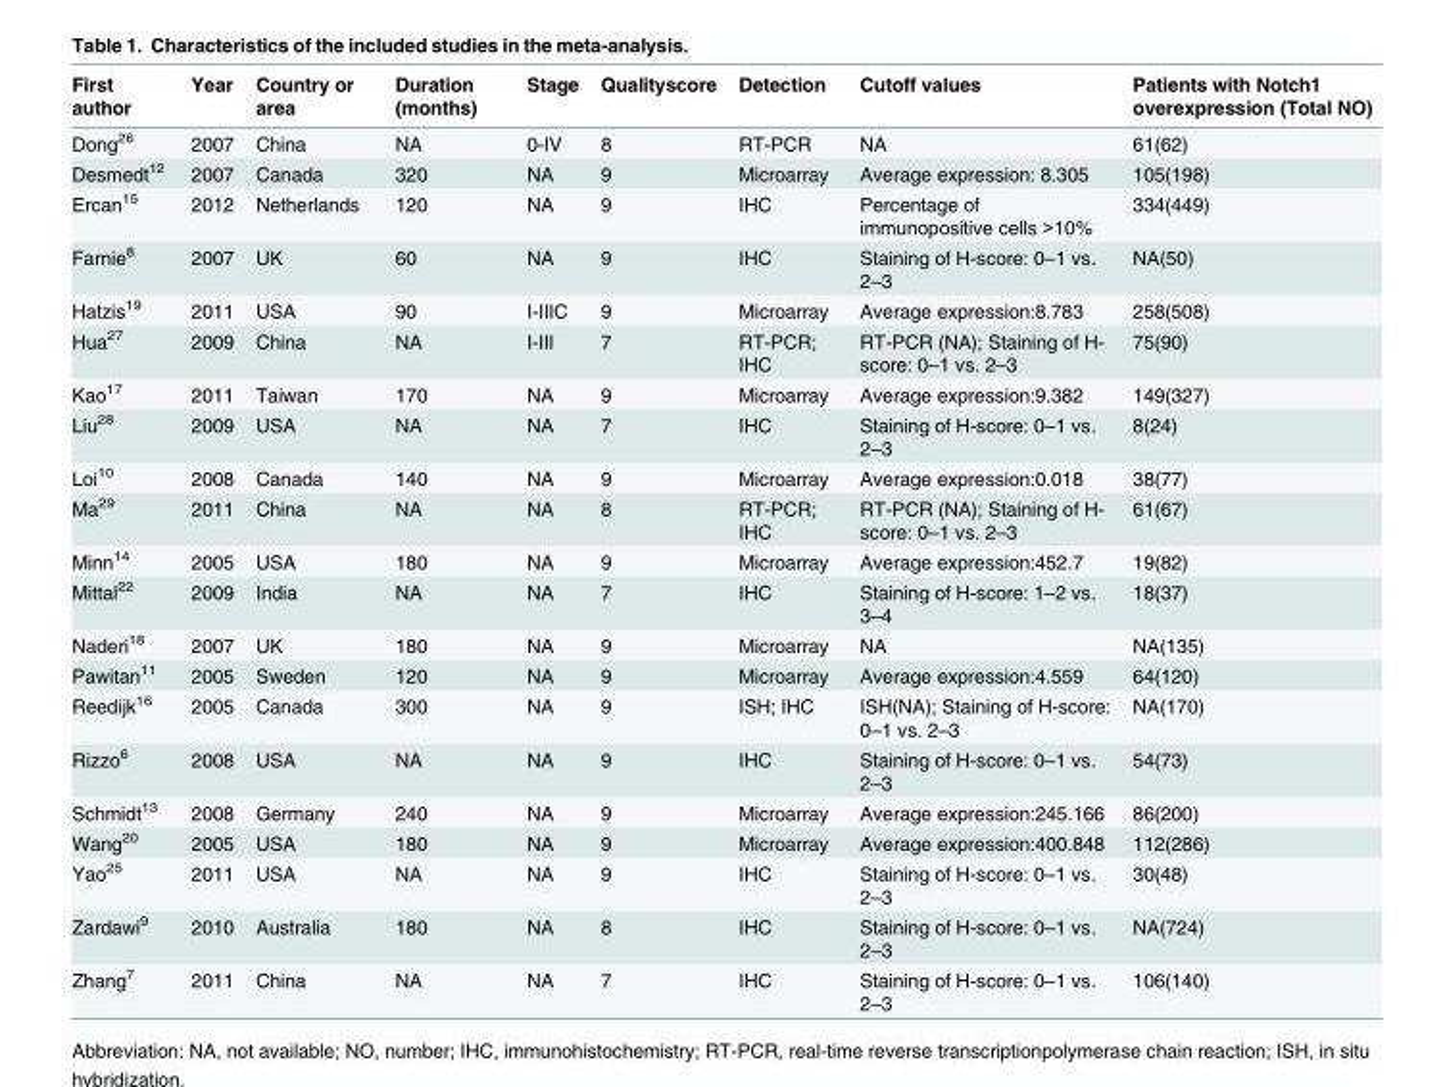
<table><thead><tr><td>First author</td><td>Year</td><td>Country or area</td><td>Duration (months)</td><td>Stage</td><td>Qualityscore</td><td>Detection</td><td>Cutoff values</td><td>Patients with Notch1 overexpression (Total NO)</td></tr></thead><tbody><tr><td>Dong<sup>26</sup></td><td>2007</td><td>China</td><td>NA</td><td>0-IV</td><td>8</td><td>RT-PCR</td><td>NA</td><td>61(62)</td></tr><tr><td>Desmedt<sup>12</sup></td><td>2007</td><td>Canada</td><td>320</td><td>NA</td><td>9</td><td>Microarray</td><td>Average expression: 8.305</td><td>105(198)</td></tr><tr><td>Ercan<sup>15</sup></td><td>2012</td><td>Netherlands</td><td>120</td><td>NA</td><td>9</td><td>IHC</td><td>Percentage of immunopositive cells &gt;10%</td><td>334(449)</td></tr><tr><td>Farnie<sup>8</sup></td><td>2007</td><td>UK</td><td>60</td><td>NA</td><td>9</td><td>IHC</td><td>Staining of H-score: 0–1 vs. 2–3</td><td>NA(50)</td></tr><tr><td>Hatzis<sup>19</sup></td><td>2011</td><td>USA</td><td>90</td><td>I-IIIC</td><td>9</td><td>Microarray</td><td>Average expression:8.783</td><td>258(508)</td></tr><tr><td>Hua<sup>27</sup></td><td>2009</td><td>China</td><td>NA</td><td>I-III</td><td>7</td><td>RT-PCR; IHC</td><td>RT-PCR (NA); Staining of H- score: 0–1 vs. 2–3</td><td>75(90)</td></tr><tr><td>Kao<sup>17</sup></td><td>2011</td><td>Taiwan</td><td>170</td><td>NA</td><td>9</td><td>Microarray</td><td>Average expression:9.382</td><td>149(327)</td></tr><tr><td>Liu<sup>28</sup></td><td>2009</td><td>USA</td><td>NA</td><td>NA</td><td>7</td><td>IHC</td><td>Staining of H-score: 0–1 vs. 2–3</td><td>8(24)</td></tr><tr><td>Loi<sup>10</sup></td><td>2008</td><td>Canada</td><td>140</td><td>NA</td><td>9</td><td>Microarray</td><td>Average expression:0.018</td><td>38(77)</td></tr><tr><td>Ma<sup>29</sup></td><td>2011</td><td>China</td><td>NA</td><td>NA</td><td>8</td><td>RT-PCR; IHC</td><td>RT-PCR (NA); Staining of H- score: 0–1 vs. 2–3</td><td>61(67)</td></tr><tr><td>Minn<sup>14</sup></td><td>2005</td><td>USA</td><td>180</td><td>NA</td><td>9</td><td>Microarray</td><td>Average expression:452.7</td><td>19(82)</td></tr><tr><td>Mittal<sup>22</sup></td><td>2009</td><td>India</td><td>NA</td><td>NA</td><td>7</td><td>IHC</td><td>Staining of H-score: 1–2 vs. 3–4</td><td>18(37)</td></tr><tr><td>Naderi<sup>18</sup></td><td>2007</td><td>UK</td><td>180</td><td>NA</td><td>9</td><td>Microarray</td><td>NA</td><td>NA(135)</td></tr><tr><td>Pawitan<sup>11</sup></td><td>2005</td><td>Sweden</td><td>120</td><td>NA</td><td>9</td><td>Microarray</td><td>Average expression:4.559</td><td>64(120)</td></tr><tr><td>Reedijk<sup>16</sup></td><td>2005</td><td>Canada</td><td>300</td><td>NA</td><td>9</td><td>ISH; IHC</td><td>ISH(NA); Staining of H-score: 0–1 vs. 2–3</td><td>NA(170)</td></tr><tr><td>Rizzo<sup>6</sup></td><td>2008</td><td>USA</td><td>NA</td><td>NA</td><td>9</td><td>IHC</td><td>Staining of H-score: 0–1 vs. 2–3</td><td>54(73)</td></tr><tr><td>Schmidt<sup>13</sup></td><td>2008</td><td>Germany</td><td>240</td><td>NA</td><td>9</td><td>Microarray</td><td>Average expression:245.166</td><td>86(200)</td></tr><tr><td>Wang<sup>20</sup></td><td>2005</td><td>USA</td><td>180</td><td>NA</td><td>9</td><td>Microarray</td><td>Average expression:400.848</td><td>112(286)</td></tr><tr><td>Yao<sup>25</sup></td><td>2011</td><td>USA</td><td>NA</td><td>NA</td><td>9</td><td>IHC</td><td>Staining of H-score: 0–1 vs. 2–3</td><td>30(48)</td></tr><tr><td>Zardawi<sup>9</sup></td><td>2010</td><td>Australia</td><td>180</td><td>NA</td><td>8</td><td>IHC</td><td>Staining of H-score: 0–1 vs. 2–3</td><td>NA(724)</td></tr><tr><td>Zhang<sup>7</sup></td><td>2011</td><td>China</td><td>NA</td><td>NA</td><td>7</td><td>IHC</td><td>Staining of H-score: 0–1 vs. 2–3</td><td>106(140)</td></tr></tbody></table>